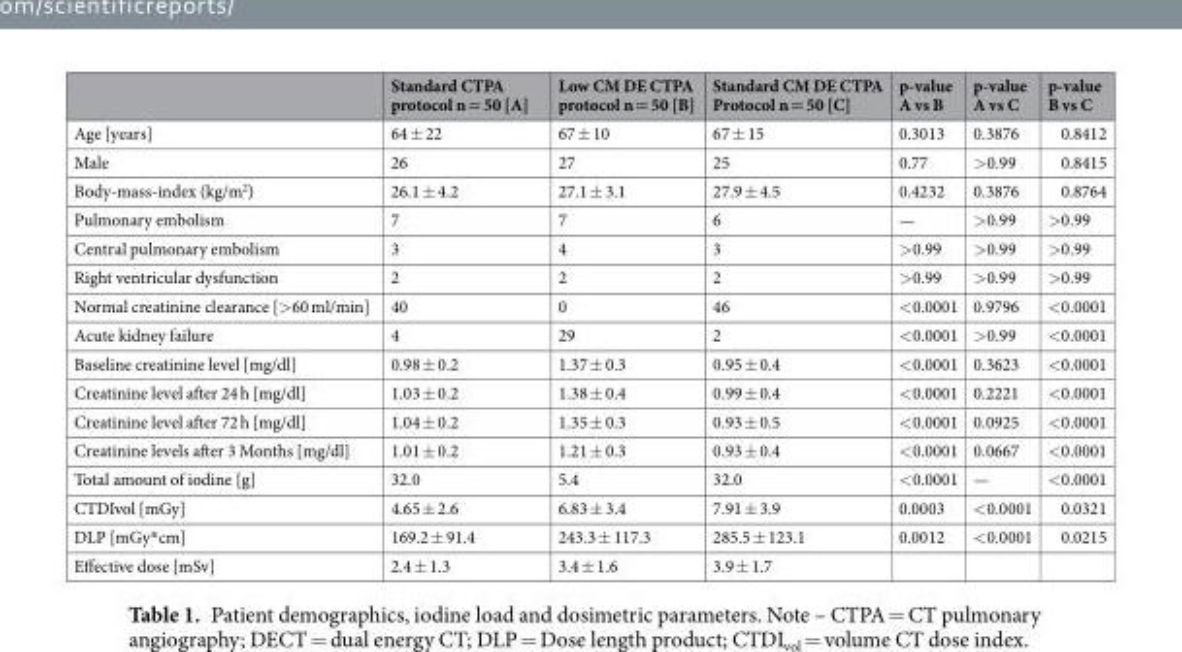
<table><thead><tr><td></td><td>Standard CTPA protocol n = 50 [A]</td><td>Low CM DE CTPA protocol n = 50 [B]</td><td>Standard CM DE CTPA Protocol n = 50 [C]</td><td>p-value A vs B</td><td>p-value A vs C</td><td>p-value B vs C</td></tr></thead><tbody><tr><td>Age [years]</td><td>64 ± 22</td><td>67 ± 10</td><td>67 ± 15</td><td>0.3013</td><td>0.3876</td><td>0.8412</td></tr><tr><td>Male</td><td>26</td><td>27</td><td>25</td><td>0.77</td><td>&gt;0.99</td><td>0.8415</td></tr><tr><td>Body-mass-index (kg/m<sup>2</sup>)</td><td>26.1 ± 4.2</td><td>27.1 ± 3.1</td><td>27.9 ± 4.5</td><td>0.4232</td><td>0.3876</td><td>0.8764</td></tr><tr><td>Pulmonary embolism</td><td>7</td><td>7</td><td>6</td><td>—</td><td>&gt;0.99</td><td>&gt;0.99</td></tr><tr><td>Central pulmonary embolism</td><td>3</td><td>4</td><td>3</td><td>&gt;0.99</td><td>&gt;0.99</td><td>&gt;0.99</td></tr><tr><td>Right ventricular dysfunction</td><td>2</td><td>2</td><td>2</td><td>&gt;0.99</td><td>&gt;0.99</td><td>&gt;0.99</td></tr><tr><td>Normal creatinine clearance [&gt;60 ml/min]</td><td>40</td><td>0</td><td>46</td><td>&lt;0.0001</td><td>0.9796</td><td>&lt;0.0001</td></tr><tr><td>Acute kidney failure</td><td>4</td><td>29</td><td>2</td><td>&lt;0.0001</td><td>&gt;0.99</td><td>&lt;0.0001</td></tr><tr><td>Baseline creatinine level [mg/dl]</td><td>0.98 ± 0.2</td><td>1.37 ± 0.3</td><td>0.95 ± 0.4</td><td>&lt;0.0001</td><td>0.3623</td><td>&lt;0.0001</td></tr><tr><td>Creatinine level after 24 h [mg/dl]</td><td>1.03 ± 0.2</td><td>1.38 ± 0.4</td><td>0.99 ± 0.4</td><td>&lt;0.0001</td><td>0.2221</td><td>&lt;0.0001</td></tr><tr><td>Creatinine level after 72 h [mg/dl]</td><td>1.04 ± 0.2</td><td>1.35 ± 0.3</td><td>0.93 ± 0.5</td><td>&lt;0.0001</td><td>0.0925</td><td>&lt;0.0001</td></tr><tr><td>Creatinine levels after 3 Months [mg/dl]</td><td>1.01 ± 0.2</td><td>1.21 ± 0.3</td><td>0.93 ± 0.4</td><td>&lt;0.0001</td><td>0.0667</td><td>&lt;0.0001</td></tr><tr><td>Total amount of iodine [g]</td><td>32.0</td><td>5.4</td><td>32.0</td><td>&lt;0.0001</td><td>—</td><td>&lt;0.0001</td></tr><tr><td>CTDIvol [mGy]</td><td>4.65 ± 2.6</td><td>6.83 ± 3.4</td><td>7.91 ± 3.9</td><td>0.0003</td><td>&lt;0.0001</td><td>0.0321</td></tr><tr><td>DLP [mGy*cm]</td><td>169.2 ± 91.4</td><td>243.3 ± 117.3</td><td>285.5 ± 123.1</td><td>0.0012</td><td>&lt;0.0001</td><td>0.0215</td></tr><tr><td>Effective dose [mSv]</td><td>2.4 ± 1.3</td><td>3.4 ± 1.6</td><td>3.9 ± 1.7</td><td></td><td></td><td></td></tr></tbody></table>